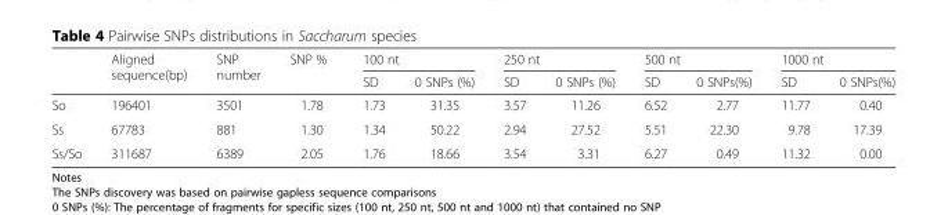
<table><thead><tr><td rowspan="2"></td><td rowspan="2">Aligned sequence(bp)</td><td rowspan="2">SNP number</td><td rowspan="2">SNP %</td><td colspan="2">100 nt</td><td colspan="2">250 nt</td><td colspan="2">500 nt</td><td colspan="2">1000 nt</td></tr><tr><td>SD</td><td>0 SNPs (%)</td><td>SD</td><td>0 SNPs (%)</td><td>SD</td><td>0 SNPs(%)</td><td>SD</td><td>0 SNPs(%)</td></tr></thead><tbody><tr><td>So</td><td>196401</td><td>3501</td><td>1.78</td><td>1.73</td><td>31.35</td><td>3.57</td><td>11.26</td><td>6.52</td><td>2.77</td><td>11.77</td><td>0.40</td></tr><tr><td>Ss</td><td>67783</td><td>881</td><td>1.30</td><td>1.34</td><td>50.22</td><td>2.94</td><td>27.52</td><td>5.51</td><td>22.30</td><td>9.78</td><td>17.39</td></tr><tr><td>Ss/So</td><td>311687</td><td>6389</td><td>2.05</td><td>1.76</td><td>18.66</td><td>3.54</td><td>3.31</td><td>6.27</td><td>0.49</td><td>11.32</td><td>0.00</td></tr></tbody></table>